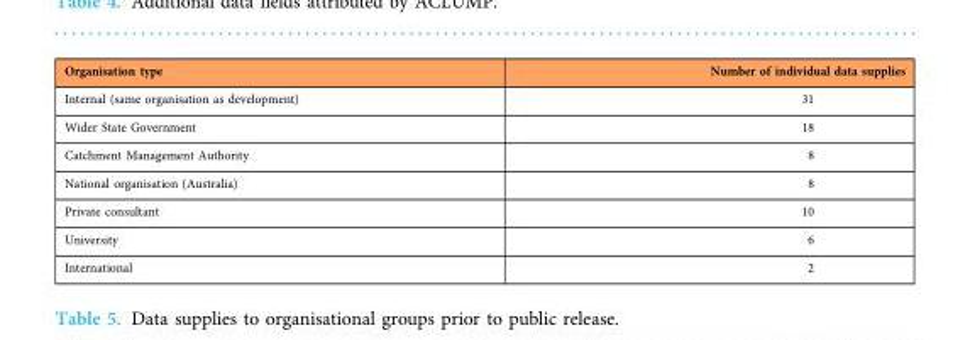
<table><thead><tr><td>Organisation type</td><td>Number of individual data supplies</td></tr></thead><tbody><tr><td>Internal (same organisation as development)</td><td>31</td></tr><tr><td>Wider State Government</td><td>18</td></tr><tr><td>Catchment Management Authority</td><td>8</td></tr><tr><td>National organisation (Australia)</td><td>8</td></tr><tr><td>Private consultant</td><td>10</td></tr><tr><td>University</td><td>6</td></tr><tr><td>International</td><td>2</td></tr></tbody></table>